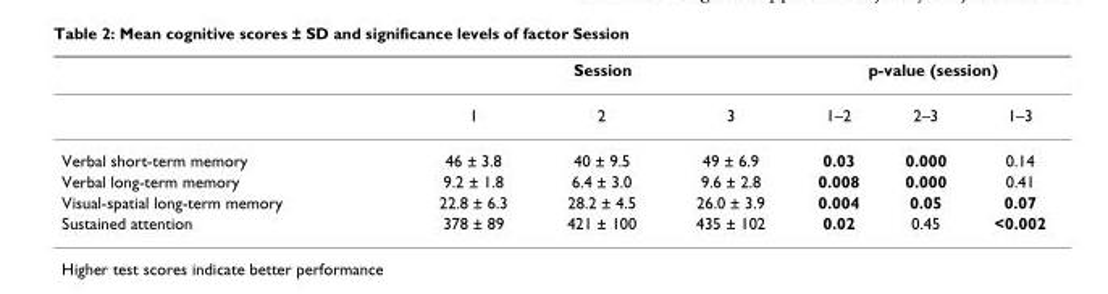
<table><thead><tr><td rowspan="2"></td><td colspan="3">Session</td><td colspan="3">p-value (session)</td></tr><tr><td>1</td><td>2</td><td>3</td><td>1–2</td><td>2–3</td><td>1–3</td></tr></thead><tbody><tr><td>Verbal short-term memory</td><td>46 ± 3.8</td><td>40 ± 9.5</td><td>49 ± 6.9</td><td>0.03</td><td>0.000</td><td>0.14</td></tr><tr><td>Verbal long-term memory</td><td>9.2 ± 1.8</td><td>6.4 ± 3.0</td><td>9.6 ± 2.8</td><td>0.008</td><td>0.000</td><td>0.41</td></tr><tr><td>Visual-spatial long-term memory</td><td>22.8 ± 6.3</td><td>28.2 ± 4.5</td><td>26.0 ± 3.9</td><td>0.004</td><td>0.05</td><td>0.07</td></tr><tr><td>Sustained attention</td><td>378 ± 89</td><td>421 ± 100</td><td>435 ± 102</td><td>0.02</td><td>0.45</td><td>&lt;0.002</td></tr></tbody></table>